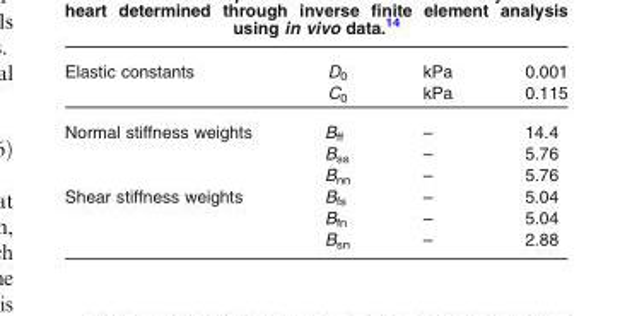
<table><thead><tr><td rowspan="2">Elastic constants</td><td rowspan="2">D<sub>0</sub> C<sub>0</sub></td><td rowspan="2">kPa kPa</td><td rowspan="2">0.001 0.115</td></tr><tr></tr></thead><tbody><tr><td rowspan="3">Normal stiffness weights</td><td>B<sub>ff</sub></td><td>–</td><td>14.4</td></tr><tr><td>B<sub>ss</sub></td><td>–</td><td>5.76</td></tr><tr><td>B<sub>nn</sub></td><td>–</td><td>5.76</td></tr><tr><td rowspan="3">Shear stiffness weights</td><td>B<sub>fs</sub></td><td>–</td><td>5.04</td></tr><tr><td>B<sub>fn</sub></td><td>–</td><td>5.04</td></tr><tr><td>B<sub>sn</sub></td><td>–</td><td>2.88</td></tr></tbody></table>